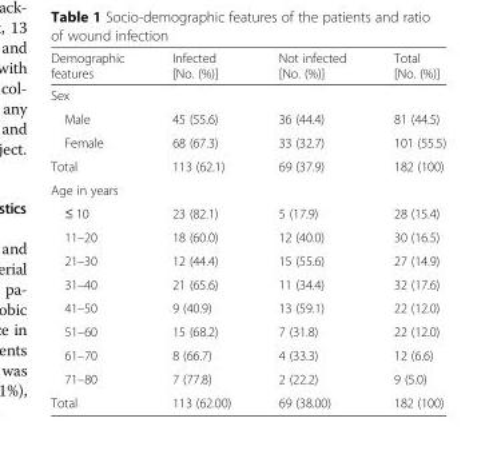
<table><thead><tr><td>Demographic features</td><td>Infected [No. (%)]</td><td>Not infected [No. (%)]</td><td>Total [No. (%)]</td></tr></thead><tbody><tr><td colspan="4">Sex</td></tr><tr><td>Male</td><td>45 (55.6)</td><td>36 (44.4)</td><td>81 (44.5)</td></tr><tr><td>Female</td><td>68 (67.3)</td><td>33 (32.7)</td><td>101 (55.5)</td></tr><tr><td>Total</td><td>113 (62.1)</td><td>69 (37.9)</td><td>182 (100)</td></tr><tr><td colspan="4">Age in years</td></tr><tr><td>≤ 10</td><td>23 (82.1)</td><td>5 (17.9)</td><td>28 (15.4)</td></tr><tr><td>11–20</td><td>18 (60.0)</td><td>12 (40.0)</td><td>30 (16.5)</td></tr><tr><td>21–30</td><td>12 (44.4)</td><td>15 (55.6)</td><td>27 (14.9)</td></tr><tr><td>31–40</td><td>21 (65.6)</td><td>11 (34.4)</td><td>32 (17.6)</td></tr><tr><td>41–50</td><td>9 (40.9)</td><td>13 (59.1)</td><td>22 (12.0)</td></tr><tr><td>51–60</td><td>15 (68.2)</td><td>7 (31.8)</td><td>22 (12.0)</td></tr><tr><td>61–70</td><td>8 (66.7)</td><td>4 (33.3)</td><td>12 (6.6)</td></tr><tr><td>71–80</td><td>7 (77.8)</td><td>2 (22.2)</td><td>9 (5.0)</td></tr><tr><td>Total</td><td>113 (62.00)</td><td>69 (38.00)</td><td>182 (100)</td></tr></tbody></table>